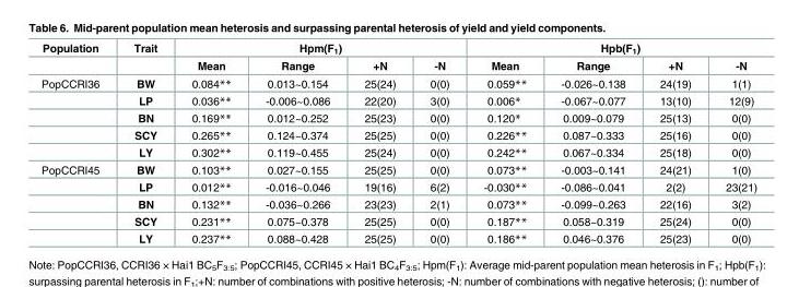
<table><thead><tr><td rowspan="2">Population</td><td rowspan="2">Trait</td><td colspan="4">Hpm(F<sub>1</sub>)</td><td colspan="4">Hpb(F<sub>1</sub>)</td></tr><tr><td>Mean</td><td>Range</td><td>+N</td><td>-N</td><td>Mean</td><td>Range</td><td>+N</td><td>-N</td></tr></thead><tbody><tr><td rowspan="5">PopCCRI36</td><td>BW</td><td>0.084**</td><td>0.013~0.154</td><td>25(24)</td><td>0(0)</td><td>0.059**</td><td>-0.026~0.138</td><td>24(19)</td><td>1(1)</td></tr><tr><td>LP</td><td>0.036**</td><td>-0.006~0.086</td><td>22(20)</td><td>3(0)</td><td>0.006*</td><td>-0.067~0.077</td><td>13(10)</td><td>12(9)</td></tr><tr><td>BN</td><td>0.169**</td><td>0.012~0.252</td><td>25(23)</td><td>0(0)</td><td>0.120*</td><td>0.009~0.079</td><td>25(13)</td><td>0(0)</td></tr><tr><td>SCY</td><td>0.265**</td><td>0.124~0.374</td><td>25(25)</td><td>0(0)</td><td>0.226**</td><td>0.087~0.333</td><td>25(16)</td><td>0(0)</td></tr><tr><td>LY</td><td>0.302**</td><td>0.119~0.455</td><td>25(24)</td><td>0(0)</td><td>0.242**</td><td>0.067~0.334</td><td>25(18)</td><td>0(0)</td></tr><tr><td rowspan="5">PopCCRI45</td><td>BW</td><td>0.103**</td><td>0.027~0.155</td><td>25(25)</td><td>0(0)</td><td>0.073**</td><td>-0.003~0.141</td><td>24(21)</td><td>1(0)</td></tr><tr><td>LP</td><td>0.012**</td><td>-0.016~0.046</td><td>19(16)</td><td>6(2)</td><td>-0.030**</td><td>-0.086~0.041</td><td>2(2)</td><td>23(21)</td></tr><tr><td>BN</td><td>0.132**</td><td>-0.036~0.266</td><td>23(23)</td><td>2(1)</td><td>0.073**</td><td>-0.099~0.263</td><td>22(16)</td><td>3(2)</td></tr><tr><td>SCY</td><td>0.231**</td><td>0.075~0.378</td><td>25(25)</td><td>0(0)</td><td>0.187**</td><td>0.058~0.319</td><td>25(24)</td><td>0(0)</td></tr><tr><td>LY</td><td>0.237**</td><td>0.088~0.428</td><td>25(25)</td><td>0(0)</td><td>0.186**</td><td>0.046~0.376</td><td>25(23)</td><td>0(0)</td></tr></tbody></table>